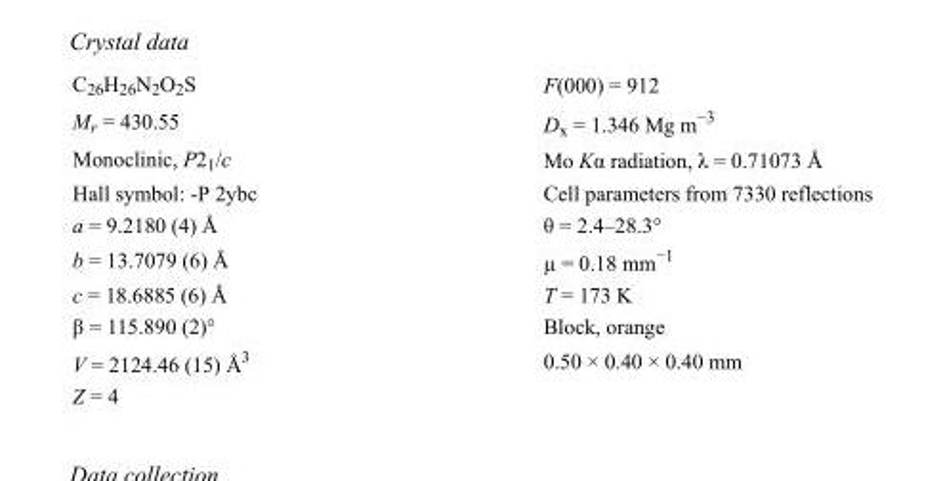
<table><tbody><tr><td>C<sub>26</sub>H<sub>26</sub>N<sub>2</sub>O<sub>2</sub>S</td><td>F(000) = 912</td></tr><tr><td>M<sub>r</sub> = 430.55</td><td>D<sub>x</sub> = 1.346 Mg m<sup>−3</sup></td></tr><tr><td>Monoclinic, P2<sub>1</sub>/c</td><td>Mo Kα radiation, λ = 0.71073 Å</td></tr><tr><td>Hall symbol: -P 2ybc</td><td>Cell parameters from 7330 reflections</td></tr><tr><td>a = 9.2180 (4) Å</td><td>θ = 2.4–28.3°</td></tr><tr><td>b = 13.7079 (6) Å</td><td>µ = 0.18 mm<sup>−1</sup></td></tr><tr><td>c = 18.6885 (6) Å</td><td>T = 173 K</td></tr><tr><td>β = 115.890 (2)°</td><td>Block, orange</td></tr><tr><td>V = 2124.46 (15) Å<sup>3</sup></td><td>0.50 × 0.40 × 0.40 mm</td></tr><tr><td>Z = 4</td><td></td></tr></tbody></table>